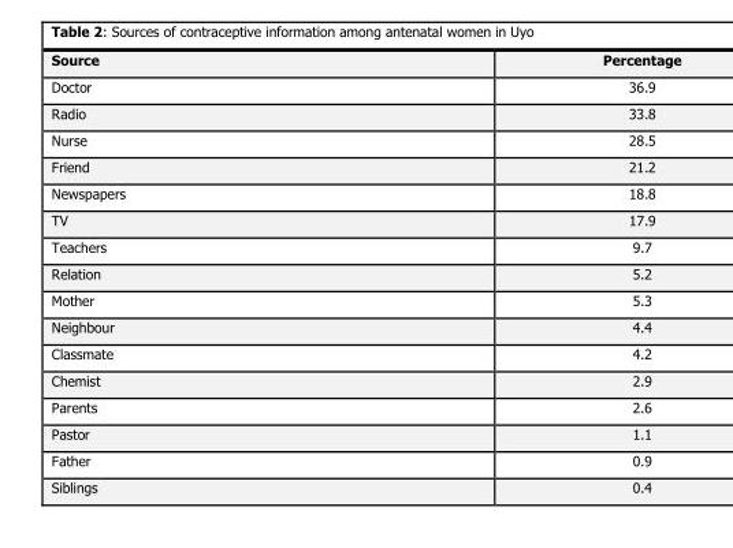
<table><thead><tr><td>Source</td><td>Percentage</td></tr></thead><tbody><tr><td>Doctor</td><td>36.9</td></tr><tr><td>Radio</td><td>33.8</td></tr><tr><td>Nurse</td><td>28.5</td></tr><tr><td>Friend</td><td>21.2</td></tr><tr><td>Newspapers</td><td>18.8</td></tr><tr><td>TV</td><td>17.9</td></tr><tr><td>Teachers</td><td>9.7</td></tr><tr><td>Relation</td><td>5.2</td></tr><tr><td>Mother</td><td>5.3</td></tr><tr><td>Neighbour</td><td>4.4</td></tr><tr><td>Classmate</td><td>4.2</td></tr><tr><td>Chemist</td><td>2.9</td></tr><tr><td>Parents</td><td>2.6</td></tr><tr><td>Pastor</td><td>1.1</td></tr><tr><td>Father</td><td>0.9</td></tr><tr><td>Siblings</td><td>0.4</td></tr></tbody></table>